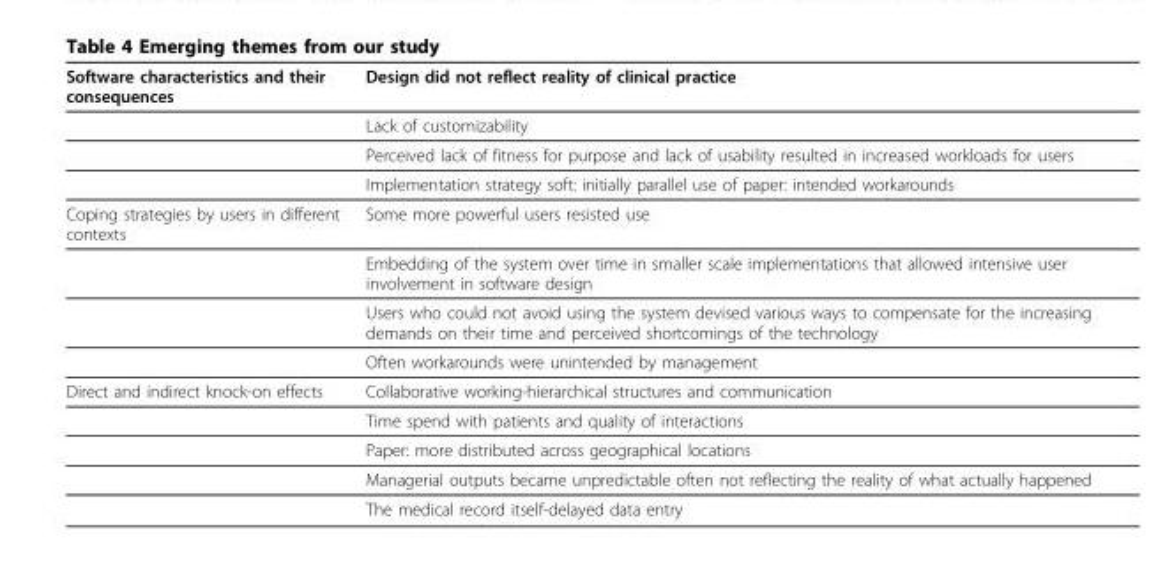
<table><thead><tr><td>Software characteristics and their consequences</td><td>Design did not reflect reality of clinical practice</td></tr></thead><tbody><tr><td></td><td>Lack of customizability</td></tr><tr><td></td><td>Perceived lack of fitness for purpose and lack of usability resulted in increased workloads for users</td></tr><tr><td></td><td>Implementation strategy soft: initially parallel use of paper: intended workarounds</td></tr><tr><td rowspan="4">Coping strategies by users in different contexts</td><td>Some more powerful users resisted use</td></tr><tr><td>Embedding of the system over time in smaller scale implementations that allowed intensive user involvement in software design</td></tr><tr><td>Users who could not avoid using the system devised various ways to compensate for the increasing demands on their time and perceived shortcomings of the technology</td></tr><tr><td>Often workarounds were unintended by management</td></tr><tr><td rowspan="5">Direct and indirect knock-on effects</td><td>Collaborative working-hierarchical structures and communication</td></tr><tr><td>Time spend with patients and quality of interactions</td></tr><tr><td>Paper: more distributed across geographical locations</td></tr><tr><td>Managerial outputs became unpredictable often not reflecting the reality of what actually happened</td></tr><tr><td>The medical record itself-delayed data entry</td></tr></tbody></table>